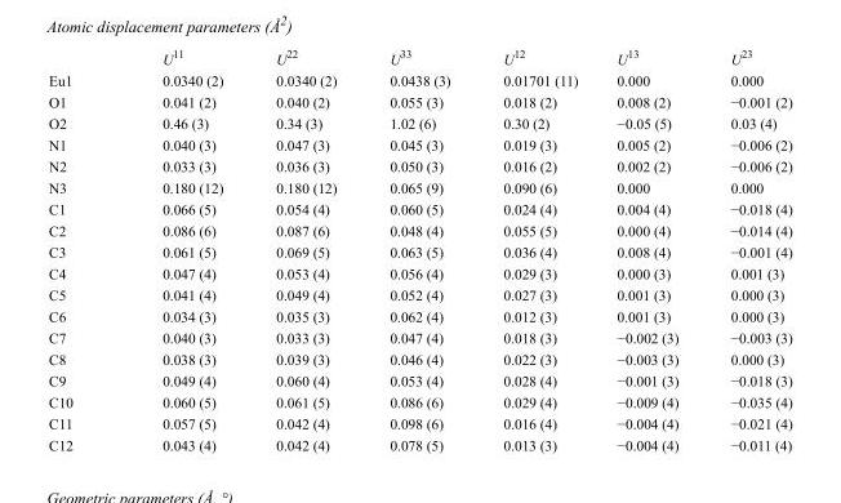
<table><thead><tr><td></td><td>U<sup>11</sup></td><td>U<sup>22</sup></td><td>U<sup>33</sup></td><td>U<sup>12</sup></td><td>U<sup>13</sup></td><td>U<sup>23</sup></td></tr></thead><tbody><tr><td>Eu1</td><td>0.0340 (2)</td><td>0.0340 (2)</td><td>0.0438 (3)</td><td>0.01701 (11)</td><td>0.000</td><td>0.000</td></tr><tr><td>O1</td><td>0.041 (2)</td><td>0.040 (2)</td><td>0.055 (3)</td><td>0.018 (2)</td><td>0.008 (2)</td><td>−0.001 (2)</td></tr><tr><td>O2</td><td>0.46 (3)</td><td>0.34 (3)</td><td>1.02 (6)</td><td>0.30 (2)</td><td>−0.05 (5)</td><td>0.03 (4)</td></tr><tr><td>N1</td><td>0.040 (3)</td><td>0.047 (3)</td><td>0.045 (3)</td><td>0.019 (3)</td><td>0.005 (2)</td><td>−0.006 (2)</td></tr><tr><td>N2</td><td>0.033 (3)</td><td>0.036 (3)</td><td>0.050 (3)</td><td>0.016 (2)</td><td>0.002 (2)</td><td>−0.006 (2)</td></tr><tr><td>N3</td><td>0.180 (12)</td><td>0.180 (12)</td><td>0.065 (9)</td><td>0.090 (6)</td><td>0.000</td><td>0.000</td></tr><tr><td>C1</td><td>0.066 (5)</td><td>0.054 (4)</td><td>0.060 (5)</td><td>0.024 (4)</td><td>0.004 (4)</td><td>−0.018 (4)</td></tr><tr><td>C2</td><td>0.086 (6)</td><td>0.087 (6)</td><td>0.048 (4)</td><td>0.055 (5)</td><td>0.000 (4)</td><td>−0.014 (4)</td></tr><tr><td>C3</td><td>0.061 (5)</td><td>0.069 (5)</td><td>0.063 (5)</td><td>0.036 (4)</td><td>0.008 (4)</td><td>−0.001 (4)</td></tr><tr><td>C4</td><td>0.047 (4)</td><td>0.053 (4)</td><td>0.056 (4)</td><td>0.029 (3)</td><td>0.000 (3)</td><td>0.001 (3)</td></tr><tr><td>C5</td><td>0.041 (4)</td><td>0.049 (4)</td><td>0.052 (4)</td><td>0.027 (3)</td><td>0.001 (3)</td><td>0.000 (3)</td></tr><tr><td>C6</td><td>0.034 (3)</td><td>0.035 (3)</td><td>0.062 (4)</td><td>0.012 (3)</td><td>0.001 (3)</td><td>0.000 (3)</td></tr><tr><td>C7</td><td>0.040 (3)</td><td>0.033 (3)</td><td>0.047 (4)</td><td>0.018 (3)</td><td>−0.002 (3)</td><td>−0.003 (3)</td></tr><tr><td>C8</td><td>0.038 (3)</td><td>0.039 (3)</td><td>0.046 (4)</td><td>0.022 (3)</td><td>−0.003 (3)</td><td>0.000 (3)</td></tr><tr><td>C9</td><td>0.049 (4)</td><td>0.060 (4)</td><td>0.053 (4)</td><td>0.028 (4)</td><td>−0.001 (3)</td><td>−0.018 (3)</td></tr><tr><td>C10</td><td>0.060 (5)</td><td>0.061 (5)</td><td>0.086 (6)</td><td>0.029 (4)</td><td>−0.009 (4)</td><td>−0.035 (4)</td></tr><tr><td>C11</td><td>0.057 (5)</td><td>0.042 (4)</td><td>0.098 (6)</td><td>0.016 (4)</td><td>−0.004 (4)</td><td>−0.021 (4)</td></tr><tr><td>C12</td><td>0.043 (4)</td><td>0.042 (4)</td><td>0.078 (5)</td><td>0.013 (3)</td><td>−0.004 (4)</td><td>−0.011 (4)</td></tr></tbody></table>